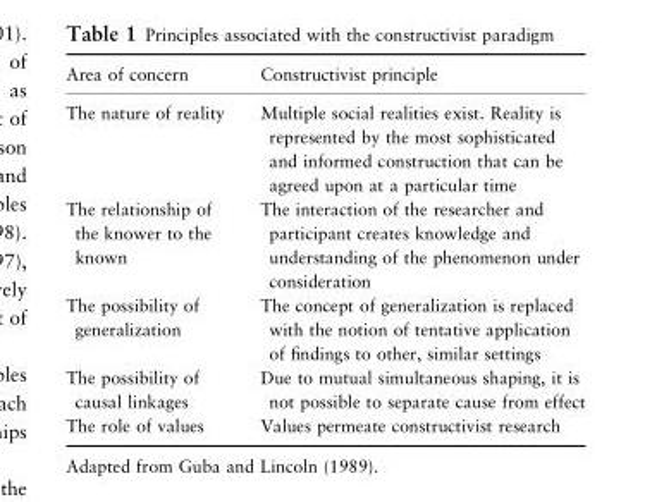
<table><thead><tr><td>Area of concern</td><td>Constructivist principle</td></tr></thead><tbody><tr><td>The nature of reality</td><td>Multiple social realities exist. Reality is represented by the most sophisticated and informed construction that can be agreed upon at a particular time</td></tr><tr><td>The relationship of the knower to the known</td><td>The interaction of the researcher and participant creates knowledge and understanding of the phenomenon under consideration</td></tr><tr><td>The possibility of generalization</td><td>The concept of generalization is replaced with the notion of tentative application of findings to other, similar settings</td></tr><tr><td>The possibility of causal linkages</td><td>Due to mutual simultaneous shaping, it is not possible to separate cause from effect</td></tr><tr><td>The role of values</td><td>Values permeate constructivist research</td></tr></tbody></table>